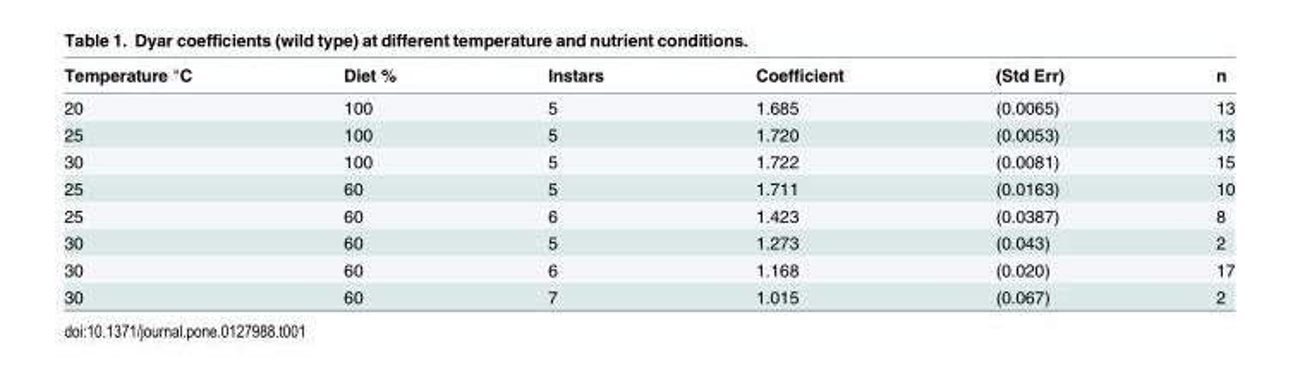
<table><thead><tr><td>Temperature °C</td><td>Diet %</td><td>Instars</td><td>Coefficient</td><td>(Std Err)</td><td>n</td></tr></thead><tbody><tr><td>20</td><td>100</td><td>5</td><td>1.685</td><td>(0.0065)</td><td>13</td></tr><tr><td>25</td><td>100</td><td>5</td><td>1.720</td><td>(0.0053)</td><td>13</td></tr><tr><td>30</td><td>100</td><td>5</td><td>1.722</td><td>(0.0081)</td><td>15</td></tr><tr><td>25</td><td>60</td><td>5</td><td>1.711</td><td>(0.0163)</td><td>10</td></tr><tr><td>25</td><td>60</td><td>6</td><td>1.423</td><td>(0.0387)</td><td>8</td></tr><tr><td>30</td><td>60</td><td>5</td><td>1.273</td><td>(0.043)</td><td>2</td></tr><tr><td>30</td><td>60</td><td>6</td><td>1.168</td><td>(0.020)</td><td>17</td></tr><tr><td>30</td><td>60</td><td>7</td><td>1.015</td><td>(0.067)</td><td>2</td></tr></tbody></table>